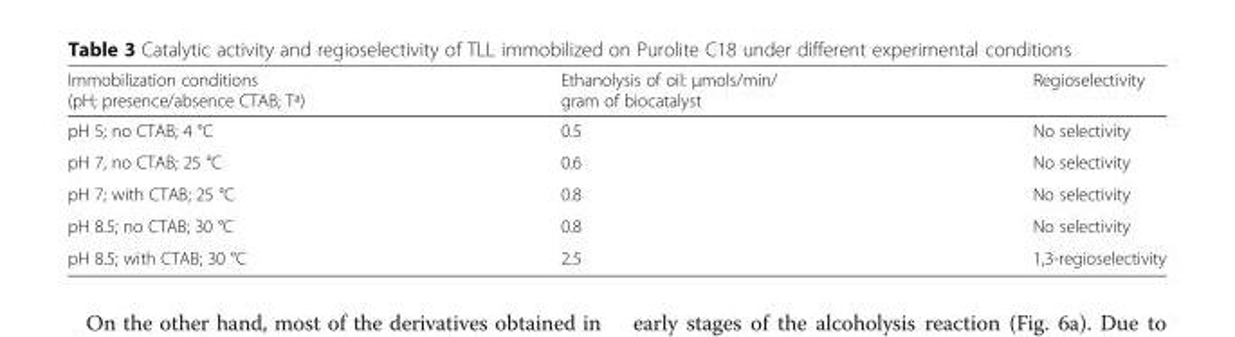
<table><thead><tr><td>Immobilization conditions (pH; presence/absence CTAB; Tª)</td><td>Ethanolysis of oil: μmols/min/ gram of biocatalyst</td><td>Regioselectivity</td></tr></thead><tbody><tr><td>pH 5; no CTAB; 4 °C</td><td>0.5</td><td>No selectivity</td></tr><tr><td>pH 7, no CTAB; 25 °C</td><td>0.6</td><td>No selectivity</td></tr><tr><td>pH 7; with CTAB; 25 °C</td><td>0.8</td><td>No selectivity</td></tr><tr><td>pH 8.5; no CTAB; 30 °C</td><td>0.8</td><td>No selectivity</td></tr><tr><td>pH 8.5; with CTAB; 30 °C</td><td>2.5</td><td>1,3-regioselectivity</td></tr></tbody></table>